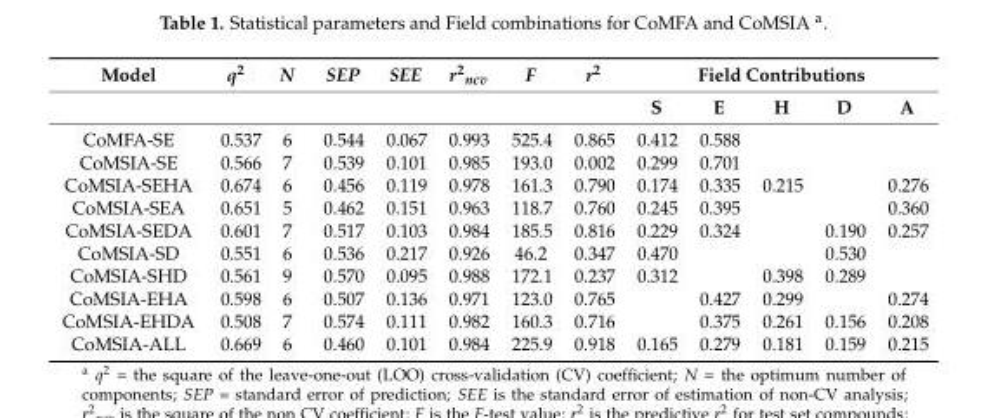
<table><thead><tr><td rowspan="2">Model</td><td rowspan="2">q<sup>2</sup></td><td rowspan="2">N</td><td rowspan="2">SEP</td><td rowspan="2">SEE</td><td rowspan="2">r<sup>2</sup><sub>ncv</sub></td><td rowspan="2">F</td><td rowspan="2">r<sup>2</sup></td><td colspan="5">Field Contributions</td></tr><tr><td>S</td><td>E</td><td>H</td><td>D</td><td>A</td></tr></thead><tbody><tr><td>CoMFA-SE</td><td>0.537</td><td>6</td><td>0.544</td><td>0.067</td><td>0.993</td><td>525.4</td><td>0.865</td><td>0.412</td><td>0.588</td><td></td><td></td><td></td></tr><tr><td>CoMSIA-SE</td><td>0.566</td><td>7</td><td>0.539</td><td>0.101</td><td>0.985</td><td>193.0</td><td>0.002</td><td>0.299</td><td>0.701</td><td></td><td></td><td></td></tr><tr><td>CoMSIA-SEHA</td><td>0.674</td><td>6</td><td>0.456</td><td>0.119</td><td>0.978</td><td>161.3</td><td>0.790</td><td>0.174</td><td>0.335</td><td>0.215</td><td></td><td>0.276</td></tr><tr><td>CoMSIA-SEA</td><td>0.651</td><td>5</td><td>0.462</td><td>0.151</td><td>0.963</td><td>118.7</td><td>0.760</td><td>0.245</td><td>0.395</td><td></td><td></td><td>0.360</td></tr><tr><td>CoMSIA-SEDA</td><td>0.601</td><td>7</td><td>0.517</td><td>0.103</td><td>0.984</td><td>185.5</td><td>0.816</td><td>0.229</td><td>0.324</td><td></td><td>0.190</td><td>0.257</td></tr><tr><td>CoMSIA-SD</td><td>0.551</td><td>6</td><td>0.536</td><td>0.217</td><td>0.926</td><td>46.2</td><td>0.347</td><td>0.470</td><td></td><td></td><td>0.530</td><td></td></tr><tr><td>CoMSIA-SHD</td><td>0.561</td><td>9</td><td>0.570</td><td>0.095</td><td>0.988</td><td>172.1</td><td>0.237</td><td>0.312</td><td></td><td>0.398</td><td>0.289</td><td></td></tr><tr><td>CoMSIA-EHA</td><td>0.598</td><td>6</td><td>0.507</td><td>0.136</td><td>0.971</td><td>123.0</td><td>0.765</td><td></td><td>0.427</td><td>0.299</td><td></td><td>0.274</td></tr><tr><td>CoMSIA-EHDA</td><td>0.508</td><td>7</td><td>0.574</td><td>0.111</td><td>0.982</td><td>160.3</td><td>0.716</td><td></td><td>0.375</td><td>0.261</td><td>0.156</td><td>0.208</td></tr><tr><td>CoMSIA-ALL</td><td>0.669</td><td>6</td><td>0.460</td><td>0.101</td><td>0.984</td><td>225.9</td><td>0.918</td><td>0.165</td><td>0.279</td><td>0.181</td><td>0.159</td><td>0.215</td></tr></tbody></table>